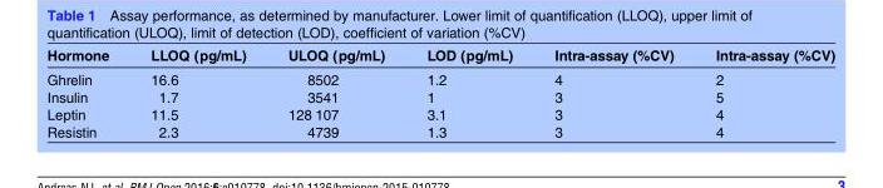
<table><thead><tr><td>Hormone</td><td>LLOQ (pg/mL)</td><td>ULOQ (pg/mL)</td><td>LOD (pg/mL)</td><td>Intra-assay (%CV)</td><td>Intra-assay (%CV)</td></tr></thead><tbody><tr><td>Ghrelin</td><td>16.6</td><td>8502</td><td>1.2</td><td>4</td><td>2</td></tr><tr><td>Insulin</td><td>1.7</td><td>3541</td><td>1</td><td>3</td><td>5</td></tr><tr><td>Leptin</td><td>11.5</td><td>128 107</td><td>3.1</td><td>3</td><td>4</td></tr><tr><td>Resistin</td><td>2.3</td><td>4739</td><td>1.3</td><td>3</td><td>4</td></tr></tbody></table>